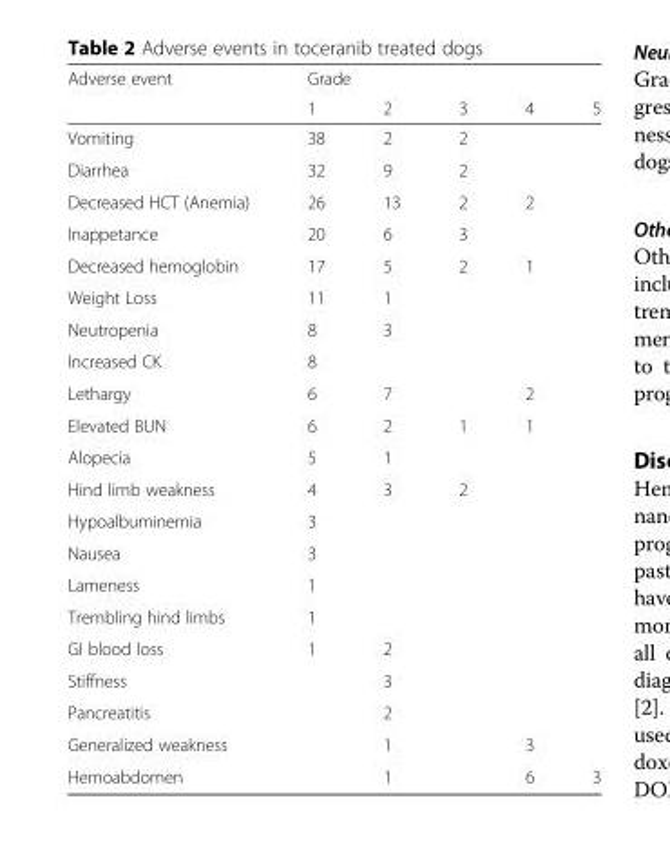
<table><thead><tr><td rowspan="2">Adverse event</td><td colspan="5">Grade</td></tr><tr><td>1</td><td>2</td><td>3</td><td>4</td><td>5</td></tr></thead><tbody><tr><td>Vomiting</td><td>38</td><td>2</td><td>2</td><td></td><td></td></tr><tr><td>Diarrhea</td><td>32</td><td>9</td><td>2</td><td></td><td></td></tr><tr><td>Decreased HCT (Anemia)</td><td>26</td><td>13</td><td>2</td><td>2</td><td></td></tr><tr><td>Inappetance</td><td>20</td><td>6</td><td>3</td><td></td><td></td></tr><tr><td>Decreased hemoglobin</td><td>17</td><td>5</td><td>2</td><td>1</td><td></td></tr><tr><td>Weight Loss</td><td>11</td><td>1</td><td></td><td></td><td></td></tr><tr><td>Neutropenia</td><td>8</td><td>3</td><td></td><td></td><td></td></tr><tr><td>Increased CK</td><td>8</td><td></td><td></td><td></td><td></td></tr><tr><td>Lethargy</td><td>6</td><td>7</td><td></td><td>2</td><td></td></tr><tr><td>Elevated BUN</td><td>6</td><td>2</td><td>1</td><td>1</td><td></td></tr><tr><td>Alopecia</td><td>5</td><td>1</td><td></td><td></td><td></td></tr><tr><td>Hind limb weakness</td><td>4</td><td>3</td><td>2</td><td></td><td></td></tr><tr><td>Hypoalbuminemia</td><td>3</td><td></td><td></td><td></td><td></td></tr><tr><td>Nausea</td><td>3</td><td></td><td></td><td></td><td></td></tr><tr><td>Lameness</td><td>1</td><td></td><td></td><td></td><td></td></tr><tr><td>Trembling hind limbs</td><td>1</td><td></td><td></td><td></td><td></td></tr><tr><td>GI blood loss</td><td>1</td><td>2</td><td></td><td></td><td></td></tr><tr><td>Stiffness</td><td></td><td>3</td><td></td><td></td><td></td></tr><tr><td>Pancreatitis</td><td></td><td>2</td><td></td><td></td><td></td></tr><tr><td>Generalized weakness</td><td></td><td>1</td><td></td><td>3</td><td></td></tr><tr><td>Hemoabdomen</td><td></td><td>1</td><td></td><td>6</td><td>3</td></tr></tbody></table>